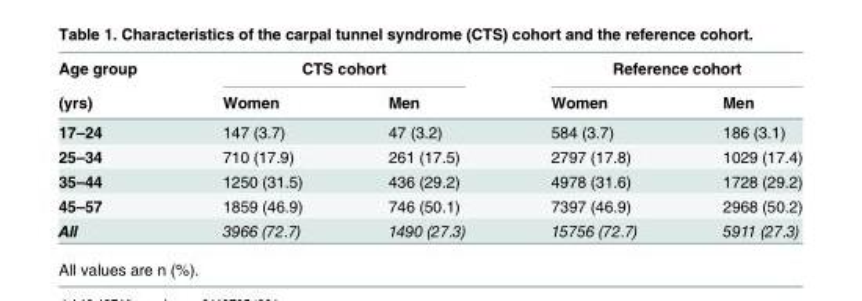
<table><thead><tr><td rowspan="2">Age group (yrs)</td><td colspan="2">CTS cohort</td><td colspan="2">Reference cohort</td></tr><tr><td>Women</td><td>Men</td><td>Women</td><td>Men</td></tr></thead><tbody><tr><td>17–24</td><td>147 (3.7)</td><td>47 (3.2)</td><td>584 (3.7)</td><td>186 (3.1)</td></tr><tr><td>25–34</td><td>710 (17.9)</td><td>261 (17.5)</td><td>2797 (17.8)</td><td>1029 (17.4)</td></tr><tr><td>35–44</td><td>1250 (31.5)</td><td>436 (29.2)</td><td>4978 (31.6)</td><td>1728 (29.2)</td></tr><tr><td>45–57</td><td>1859 (46.9)</td><td>746 (50.1)</td><td>7397 (46.9)</td><td>2968 (50.2)</td></tr><tr><td>All</td><td>3966 (72.7)</td><td>1490 (27.3)</td><td>15756 (72.7)</td><td>5911 (27.3)</td></tr></tbody></table>